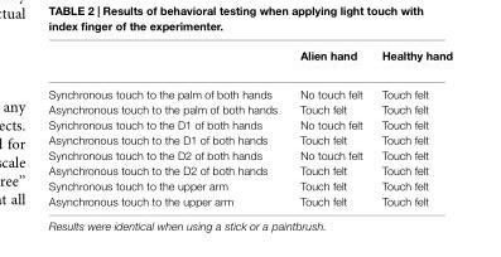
<table><thead><tr><td></td><td>Alien hand</td><td>Healthy hand</td></tr></thead><tbody><tr><td>Synchronous touch to the palm of both hands</td><td>No touch felt</td><td>Touch felt</td></tr><tr><td>Asynchronous touch to the palm of both hands</td><td>Touch felt</td><td>Touch felt</td></tr><tr><td>Synchronous touch to the D1 of both hands</td><td>No touch felt</td><td>Touch felt</td></tr><tr><td>Asynchronous touch to the D1 of both hands</td><td>Touch felt</td><td>Touch felt</td></tr><tr><td>Synchronous touch to the D2 of both hands</td><td>No touch felt</td><td>Touch felt</td></tr><tr><td>Asynchronous touch to the D2 of both hands</td><td>Touch felt</td><td>Touch felt</td></tr><tr><td>Synchronous touch to the upper arm</td><td>Touch felt</td><td>Touch felt</td></tr><tr><td>Asynchronous touch to the upper arm</td><td>Touch felt</td><td>Touch felt</td></tr></tbody></table>